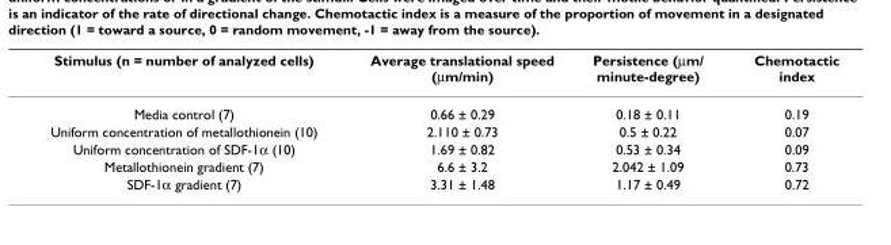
<table><thead><tr><td>Stimulus (n = number of analyzed cells)</td><td>Average translational speed (µm/min)</td><td>Persistence (µm/ minute-degree)</td><td>Chemotactic index</td></tr></thead><tbody><tr><td>Media control (7)</td><td>0.66 ± 0.29</td><td>0.18 ± 0.11</td><td>0.19</td></tr><tr><td>Uniform concentration of metallothionein (10)</td><td>2.110 ± 0.73</td><td>0.5 ± 0.22</td><td>0.07</td></tr><tr><td>Uniform concentration of SDF-1α (10)</td><td>1.69 ± 0.82</td><td>0.53 ± 0.34</td><td>0.09</td></tr><tr><td>Metallothionein gradient (7)</td><td>6.6 ± 3.2</td><td>2.042 ± 1.09</td><td>0.73</td></tr><tr><td>SDF-1α gradient (7)</td><td>3.31 ± 1.48</td><td>1.17 ± 0.49</td><td>0.72</td></tr></tbody></table>